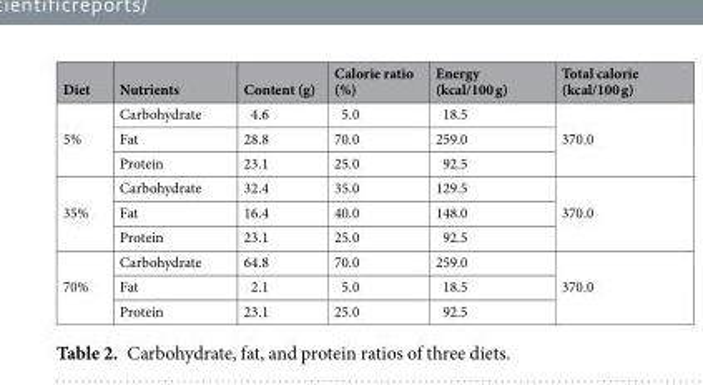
<table><thead><tr><td>Diet</td><td>Nutrients</td><td>Content (g)</td><td>Calorie ratio (%)</td><td>Energy (kcal/100 g)</td><td>Total calorie (kcal/100 g)</td></tr></thead><tbody><tr><td rowspan="3">5%</td><td>Carbohydrate</td><td>4.6</td><td>5.0</td><td>18.5</td><td rowspan="3">370.0</td></tr><tr><td>Fat</td><td>28.8</td><td>70.0</td><td>259.0</td></tr><tr><td>Protein</td><td>23.1</td><td>25.0</td><td>92.5</td></tr><tr><td rowspan="3">35%</td><td>Carbohydrate</td><td>32.4</td><td>35.0</td><td>129.5</td><td rowspan="3">370.0</td></tr><tr><td>Fat</td><td>16.4</td><td>40.0</td><td>148.0</td></tr><tr><td>Protein</td><td>23.1</td><td>25.0</td><td>92.5</td></tr><tr><td rowspan="3">70%</td><td>Carbohydrate</td><td>64.8</td><td>70.0</td><td>259.0</td><td rowspan="3">370.0</td></tr><tr><td>Fat</td><td>2.1</td><td>5.0</td><td>18.5</td></tr><tr><td>Protein</td><td>23.1</td><td>25.0</td><td>92.5</td></tr></tbody></table>